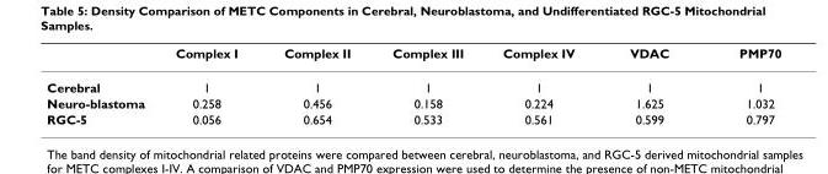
<table><thead><tr><td></td><td>Complex I</td><td>Complex II</td><td>Complex III</td><td>Complex IV</td><td>VDAC</td><td>PMP70</td></tr></thead><tbody><tr><td>Cerebral</td><td>1</td><td>1</td><td>1</td><td>1</td><td>1</td><td>1</td></tr><tr><td>Neuro-blastoma</td><td>0.258</td><td>0.456</td><td>0.158</td><td>0.224</td><td>1.625</td><td>1.032</td></tr><tr><td>RGC-5</td><td>0.056</td><td>0.654</td><td>0.533</td><td>0.561</td><td>0.599</td><td>0.797</td></tr></tbody></table>